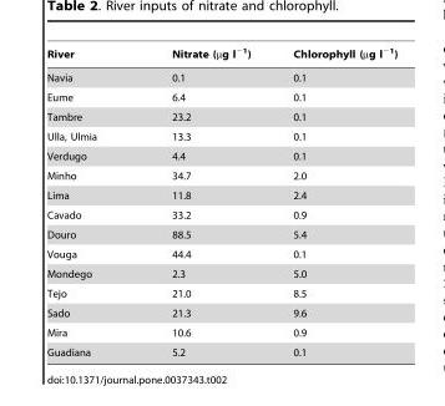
<table><thead><tr><td>River</td><td>Nitrate (µg l<sup>−1</sup>)</td><td>Chlorophyll (µg l<sup>−1</sup>)</td></tr></thead><tbody><tr><td>Navia</td><td>0.1</td><td>0.1</td></tr><tr><td>Eume</td><td>6.4</td><td>0.1</td></tr><tr><td>Tambre</td><td>23.2</td><td>0.1</td></tr><tr><td>Ulla, Ulmia</td><td>13.3</td><td>0.1</td></tr><tr><td>Verdugo</td><td>4.4</td><td>0.1</td></tr><tr><td>Minho</td><td>34.7</td><td>2.0</td></tr><tr><td>Lima</td><td>11.8</td><td>2.4</td></tr><tr><td>Cavado</td><td>33.2</td><td>0.9</td></tr><tr><td>Douro</td><td>88.5</td><td>5.4</td></tr><tr><td>Vouga</td><td>44.4</td><td>0.1</td></tr><tr><td>Mondego</td><td>2.3</td><td>5.0</td></tr><tr><td>Tejo</td><td>21.0</td><td>8.5</td></tr><tr><td>Sado</td><td>21.3</td><td>9.6</td></tr><tr><td>Mira</td><td>10.6</td><td>0.9</td></tr><tr><td>Guadiana</td><td>5.2</td><td>0.1</td></tr></tbody></table>